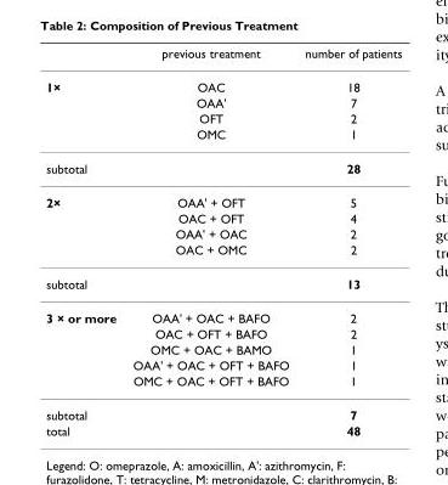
<table><thead><tr><td></td><td>previous treatment</td><td>number of patients</td></tr></thead><tbody><tr><td rowspan="4">1×</td><td>OAC</td><td>18</td></tr><tr><td>OAA&#x27;</td><td>7</td></tr><tr><td>OFT</td><td>2</td></tr><tr><td>OMC</td><td>1</td></tr><tr><td>subtotal</td><td></td><td>28</td></tr><tr><td rowspan="4">2×</td><td>OAA&#x27; + OFT</td><td>5</td></tr><tr><td>OAC + OFT</td><td>4</td></tr><tr><td>OAA&#x27; + OAC</td><td>2</td></tr><tr><td>OAC + OMC</td><td>2</td></tr><tr><td>subtotal</td><td></td><td>13</td></tr><tr><td rowspan="5">3 × or more</td><td>OAA&#x27; + OAC + BAFO</td><td>2</td></tr><tr><td>OAC + OFT + BAFO</td><td>2</td></tr><tr><td>OMC + OAC + BAMO</td><td>1</td></tr><tr><td>OAA&#x27; + OAC + OFT + BAFO</td><td>1</td></tr><tr><td>OMC + OAC + OFT + BAFO</td><td>1</td></tr><tr><td>subtotal</td><td></td><td>7</td></tr><tr><td>total</td><td></td><td>48</td></tr></tbody></table>